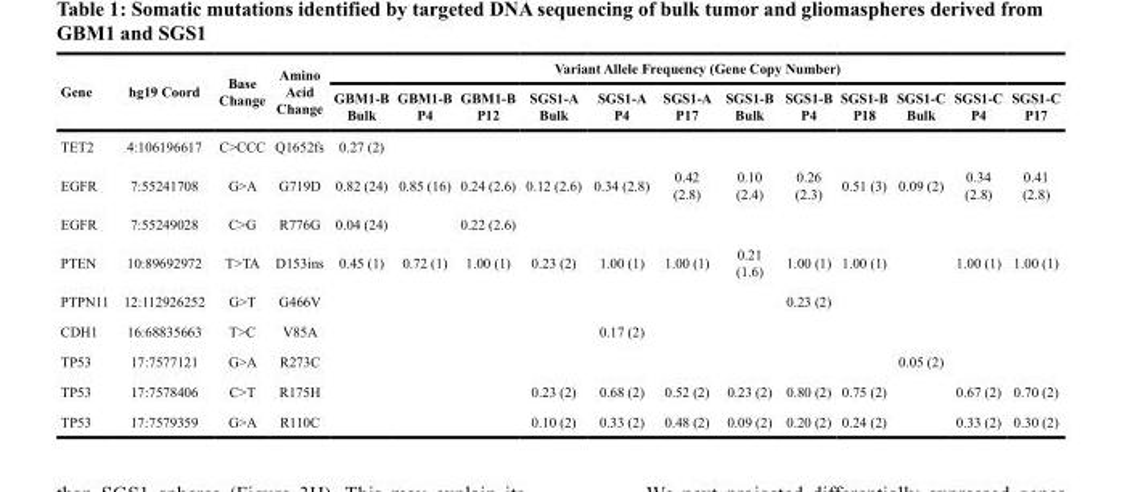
<table><thead><tr><td rowspan="2">Gene</td><td rowspan="2">hg19 Coord</td><td rowspan="2">Base Change</td><td rowspan="2">Amino Acid Change</td><td colspan="12">Variant Allele Frequency (Gene Copy Number)</td></tr><tr><td>GBM1-B Bulk</td><td>GBM1-B P4</td><td>GBM1-B P12</td><td>SGS1-A Bulk</td><td>SGS1-A P4</td><td>SGS1-A P17</td><td>SGS1-B Bulk</td><td>SGS1-B P4</td><td>SGS1-B P18</td><td>SGS1-C Bulk</td><td>SGS1-C P4</td><td>SGS1-C P17</td></tr></thead><tbody><tr><td>TET2</td><td>4:106196617</td><td>C&gt;CCC</td><td>Q1652fs</td><td>0.27 (2)</td><td></td><td></td><td></td><td></td><td></td><td></td><td></td><td></td><td></td><td></td><td></td></tr><tr><td>EGFR</td><td>7:55241708</td><td>G&gt;A</td><td>G719D</td><td>0.82 (24)</td><td>0.85 (16)</td><td>0.24 (2.6)</td><td>0.12 (2.6)</td><td>0.34 (2.8)</td><td>0.42 (2.8)</td><td>0.10 (2.4)</td><td>0.26 (2.3)</td><td>0.51 (3)</td><td>0.09 (2)</td><td>0.34 (2.8)</td><td>0.41 (2.8)</td></tr><tr><td>EGFR</td><td>7:55249028</td><td>C&gt;G</td><td>R776G</td><td>0.04 (24)</td><td></td><td>0.22 (2.6)</td><td></td><td></td><td></td><td></td><td></td><td></td><td></td><td></td><td></td></tr><tr><td>PTEN</td><td>10:89692972</td><td>T&gt;TA</td><td>D153ins</td><td>0.45 (1)</td><td>0.72 (1)</td><td>1.00 (1)</td><td>0.23 (2)</td><td>1.00 (1)</td><td>1.00 (1)</td><td>0.21 (1.6)</td><td>1.00 (1)</td><td>1.00 (1)</td><td></td><td>1.00 (1)</td><td>1.00 (1)</td></tr><tr><td>PTPN11</td><td>12:112926252</td><td>G&gt;T</td><td>G466V</td><td></td><td></td><td></td><td></td><td></td><td></td><td></td><td>0.23 (2)</td><td></td><td></td><td></td><td></td></tr><tr><td>CDH1</td><td>16:68835663</td><td>T&gt;C</td><td>V85A</td><td></td><td></td><td></td><td></td><td>0.17 (2)</td><td></td><td></td><td></td><td></td><td></td><td></td><td></td></tr><tr><td>TP53</td><td>17:7577121</td><td>G&gt;A</td><td>R273C</td><td></td><td></td><td></td><td></td><td></td><td></td><td></td><td></td><td></td><td>0.05 (2)</td><td></td><td></td></tr><tr><td>TP53</td><td>17:7578406</td><td>C&gt;T</td><td>R175H</td><td></td><td></td><td></td><td>0.23 (2)</td><td>0.68 (2)</td><td>0.52 (2)</td><td>0.23 (2)</td><td>0.80 (2)</td><td>0.75 (2)</td><td></td><td>0.67 (2)</td><td>0.70 (2)</td></tr><tr><td>TP53</td><td>17:7579359</td><td>G&gt;A</td><td>R110C</td><td></td><td></td><td></td><td>0.10 (2)</td><td>0.33 (2)</td><td>0.48 (2)</td><td>0.09 (2)</td><td>0.20 (2)</td><td>0.24 (2)</td><td></td><td>0.33 (2)</td><td>0.30 (2)</td></tr></tbody></table>